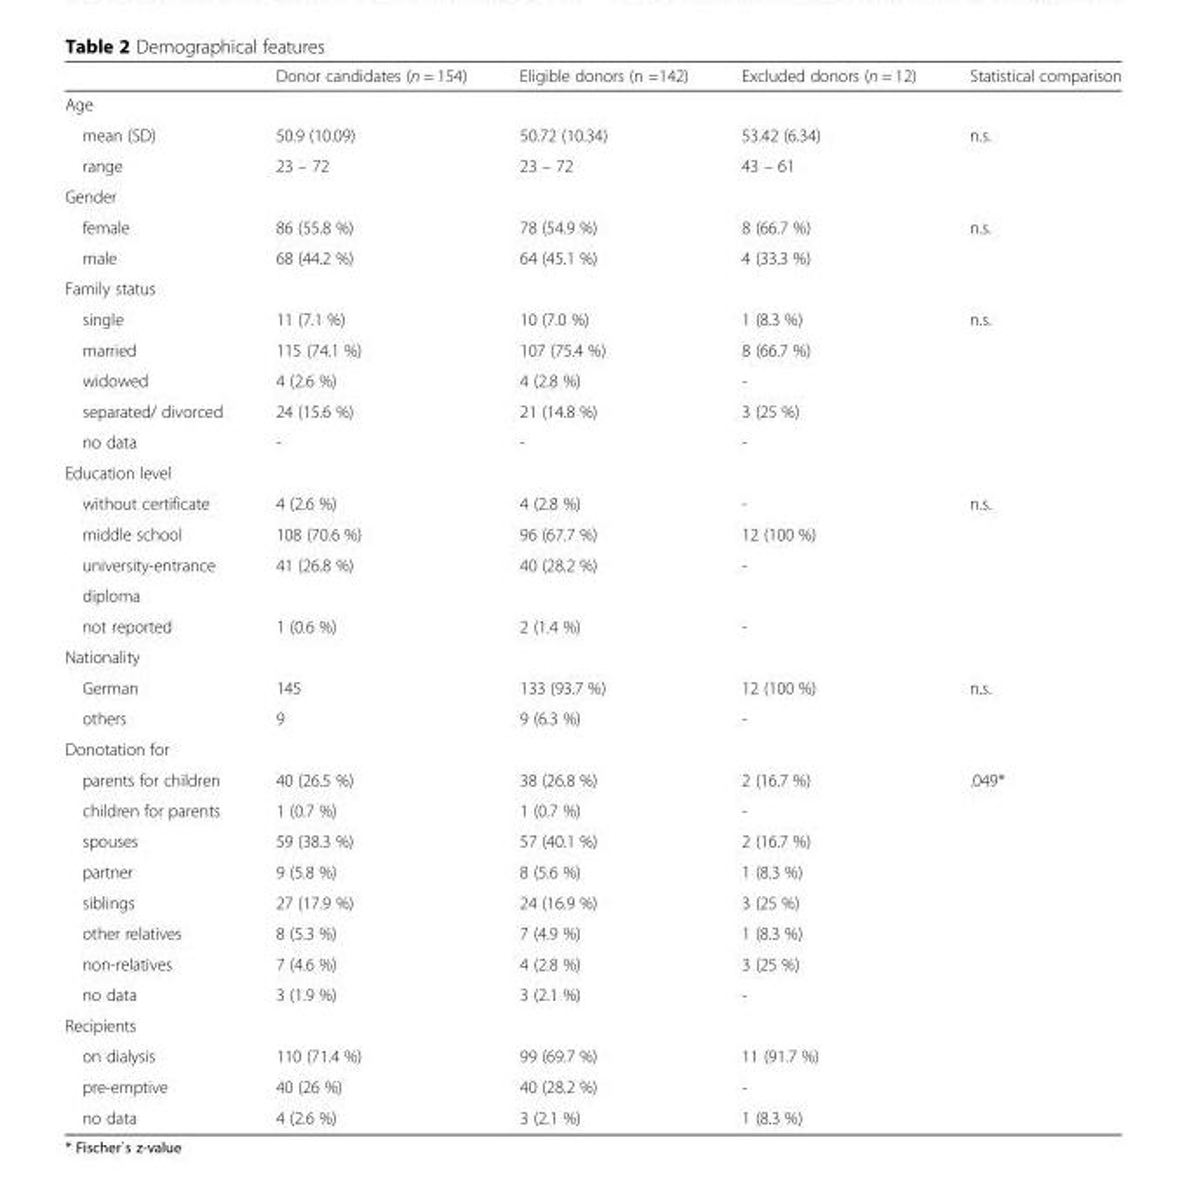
<table><thead><tr><td></td><td>Donor candidates (n = 154)</td><td>Eligible donors (n =142)</td><td>Excluded donors (n = 12)</td><td>Statistical comparison</td></tr></thead><tbody><tr><td colspan="5">Age</td></tr><tr><td>mean (SD)</td><td>50.9 (10.09)</td><td>50.72 (10.34)</td><td>53.42 (6.34)</td><td>n.s.</td></tr><tr><td>range</td><td>23 – 72</td><td>23 – 72</td><td>43 – 61</td><td></td></tr><tr><td colspan="5">Gender</td></tr><tr><td>female</td><td>86 (55.8 %)</td><td>78 (54.9 %)</td><td>8 (66.7 %)</td><td>n.s.</td></tr><tr><td>male</td><td>68 (44.2 %)</td><td>64 (45.1 %)</td><td>4 (33.3 %)</td><td></td></tr><tr><td colspan="5">Family status</td></tr><tr><td>single</td><td>11 (7.1 %)</td><td>10 (7.0 %)</td><td>1 (8.3 %)</td><td>n.s.</td></tr><tr><td>married</td><td>115 (74.1 %)</td><td>107 (75.4 %)</td><td>8 (66.7 %)</td><td></td></tr><tr><td>widowed</td><td>4 (2.6 %)</td><td>4 (2.8 %)</td><td>-</td><td></td></tr><tr><td>separated/ divorced</td><td>24 (15.6 %)</td><td>21 (14.8 %)</td><td>3 (25 %)</td><td></td></tr><tr><td>no data</td><td>-</td><td>-</td><td>-</td><td></td></tr><tr><td colspan="5">Education level</td></tr><tr><td>without certificate</td><td>4 (2.6 %)</td><td>4 (2.8 %)</td><td>-</td><td>n.s.</td></tr><tr><td>middle school</td><td>108 (70.6 %)</td><td>96 (67.7 %)</td><td>12 (100 %)</td><td></td></tr><tr><td>university-entrance</td><td>41 (26.8 %)</td><td>40 (28.2 %)</td><td>-</td><td></td></tr><tr><td colspan="5">diploma</td></tr><tr><td>not reported</td><td>1 (0.6 %)</td><td>2 (1.4 %)</td><td>-</td><td></td></tr><tr><td colspan="5">Nationality</td></tr><tr><td>German</td><td>145</td><td>133 (93.7 %)</td><td>12 (100 %)</td><td>n.s.</td></tr><tr><td>others</td><td>9</td><td>9 (6.3 %)</td><td>-</td><td></td></tr><tr><td colspan="5">Donotation for</td></tr><tr><td>parents for children</td><td>40 (26.5 %)</td><td>38 (26.8 %)</td><td>2 (16.7 %)</td><td>.049*</td></tr><tr><td>children for parents</td><td>1 (0.7 %)</td><td>1 (0.7 %)</td><td>-</td><td></td></tr><tr><td>spouses</td><td>59 (38.3 %)</td><td>57 (40.1 %)</td><td>2 (16.7 %)</td><td></td></tr><tr><td>partner</td><td>9 (5.8 %)</td><td>8 (5.6 %)</td><td>1 (8.3 %)</td><td></td></tr><tr><td>siblings</td><td>27 (17.9 %)</td><td>24 (16.9 %)</td><td>3 (25 %)</td><td></td></tr><tr><td>other relatives</td><td>8 (5.3 %)</td><td>7 (4.9 %)</td><td>1 (8.3 %)</td><td></td></tr><tr><td>non-relatives</td><td>7 (4.6 %)</td><td>4 (2.8 %)</td><td>3 (25 %)</td><td></td></tr><tr><td>no data</td><td>3 (1.9 %)</td><td>3 (2.1 %)</td><td>-</td><td></td></tr><tr><td colspan="5">Recipients</td></tr><tr><td>on dialysis</td><td>110 (71.4 %)</td><td>99 (69.7 %)</td><td>11 (91.7 %)</td><td></td></tr><tr><td>pre-emptive</td><td>40 (26 %)</td><td>40 (28.2 %)</td><td>-</td><td></td></tr><tr><td>no data</td><td>4 (2.6 %)</td><td>3 (2.1 %)</td><td>1 (8.3 %)</td><td></td></tr></tbody></table>